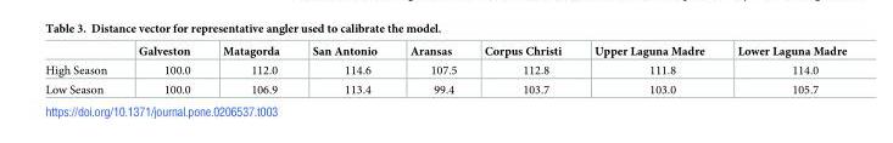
<table><thead><tr><td></td><td>Galveston</td><td>Matagorda</td><td>San Antonio</td><td>Aransas</td><td>Corpus Christi</td><td>Upper Laguna Madre</td><td>Lower Laguna Madre</td></tr></thead><tbody><tr><td>High Season</td><td>100.0</td><td>112.0</td><td>114.6</td><td>107.5</td><td>112.8</td><td>111.8</td><td>114.0</td></tr><tr><td>Low Season</td><td>100.0</td><td>106.9</td><td>113.4</td><td>99.4</td><td>103.7</td><td>103.0</td><td>105.7</td></tr></tbody></table>